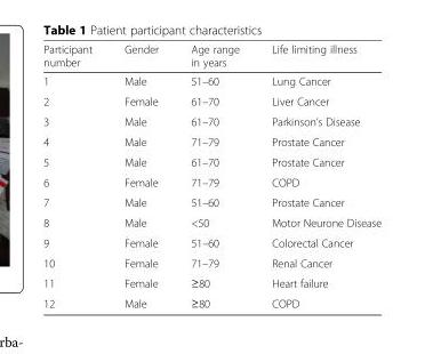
<table><thead><tr><td>Participant number</td><td>Gender</td><td>Age range in years</td><td>Life limiting illness</td></tr></thead><tbody><tr><td>1</td><td>Male</td><td>51–60</td><td>Lung Cancer</td></tr><tr><td>2</td><td>Female</td><td>61–70</td><td>Liver Cancer</td></tr><tr><td>3</td><td>Male</td><td>61–70</td><td>Parkinson’s Disease</td></tr><tr><td>4</td><td>Male</td><td>71–79</td><td>Prostate Cancer</td></tr><tr><td>5</td><td>Male</td><td>61–70</td><td>Prostate Cancer</td></tr><tr><td>6</td><td>Female</td><td>71–79</td><td>COPD</td></tr><tr><td>7</td><td>Male</td><td>51–60</td><td>Prostate Cancer</td></tr><tr><td>8</td><td>Male</td><td>&lt;50</td><td>Motor Neurone Disease</td></tr><tr><td>9</td><td>Female</td><td>51–60</td><td>Colorectal Cancer</td></tr><tr><td>10</td><td>Female</td><td>71–79</td><td>Renal Cancer</td></tr><tr><td>11</td><td>Female</td><td>≥80</td><td>Heart failure</td></tr><tr><td>12</td><td>Male</td><td>≥80</td><td>COPD</td></tr></tbody></table>